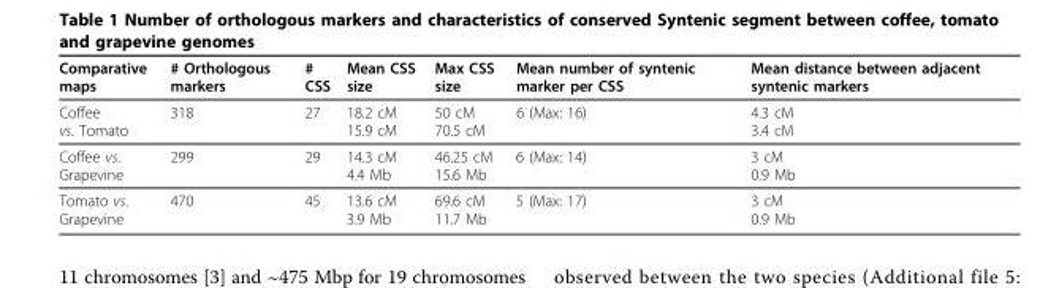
<table><thead><tr><td>Comparative maps</td><td># Orthologous markers</td><td># CSS</td><td>Mean CSS size</td><td>Max CSS size</td><td>Mean number of syntenic marker per CSS</td><td>Mean distance between adjacent syntenic markers</td></tr></thead><tbody><tr><td>Coffee vs. Tomato</td><td>318</td><td>27</td><td>18.2 cM 15.9 cM</td><td>50 cM 70.5 cM</td><td>6 (Max: 16)</td><td>4.3 cM 3.4 cM</td></tr><tr><td>Coffee vs. Grapevine</td><td>299</td><td>29</td><td>14.3 cM 4.4 Mb</td><td>46.25 cM 15.6 Mb</td><td>6 (Max: 14)</td><td>3 cM 0.9 Mb</td></tr><tr><td>Tomato vs. Grapevine</td><td>470</td><td>45</td><td>13.6 cM 3.9 Mb</td><td>69.6 cM 11.7 Mb</td><td>5 (Max: 17)</td><td>3 cM 0.9 Mb</td></tr></tbody></table>